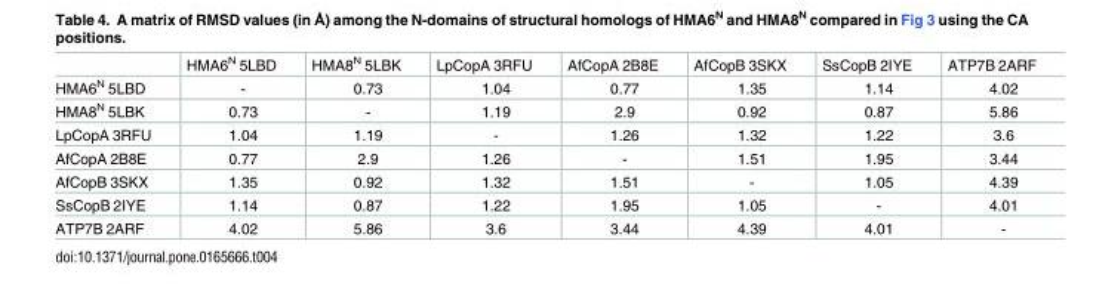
<table><thead><tr><td></td><td>HMA6<sup>N</sup> 5LBD</td><td>HMA8<sup>N</sup> 5LBK</td><td>LpCopA 3RFU</td><td>AfCopA 2B8E</td><td>AfCopB 3SKX</td><td>SsCopB 2IYE</td><td>ATP7B 2ARF</td></tr></thead><tbody><tr><td>HMA6<sup>N</sup> 5LBD</td><td>-</td><td>0.73</td><td>1.04</td><td>0.77</td><td>1.35</td><td>1.14</td><td>4.02</td></tr><tr><td>HMA8<sup>N</sup> 5LBK</td><td>0.73</td><td>-</td><td>1.19</td><td>2.9</td><td>0.92</td><td>0.87</td><td>5.86</td></tr><tr><td>LpCopA 3RFU</td><td>1.04</td><td>1.19</td><td>-</td><td>1.26</td><td>1.32</td><td>1.22</td><td>3.6</td></tr><tr><td>AfCopA 2B8E</td><td>0.77</td><td>2.9</td><td>1.26</td><td>-</td><td>1.51</td><td>1.95</td><td>3.44</td></tr><tr><td>AfCopB 3SKX</td><td>1.35</td><td>0.92</td><td>1.32</td><td>1.51</td><td>-</td><td>1.05</td><td>4.39</td></tr><tr><td>SsCopB 2IYE</td><td>1.14</td><td>0.87</td><td>1.22</td><td>1.95</td><td>1.05</td><td>-</td><td>4.01</td></tr><tr><td>ATP7B 2ARF</td><td>4.02</td><td>5.86</td><td>3.6</td><td>3.44</td><td>4.39</td><td>4.01</td><td>-</td></tr></tbody></table>